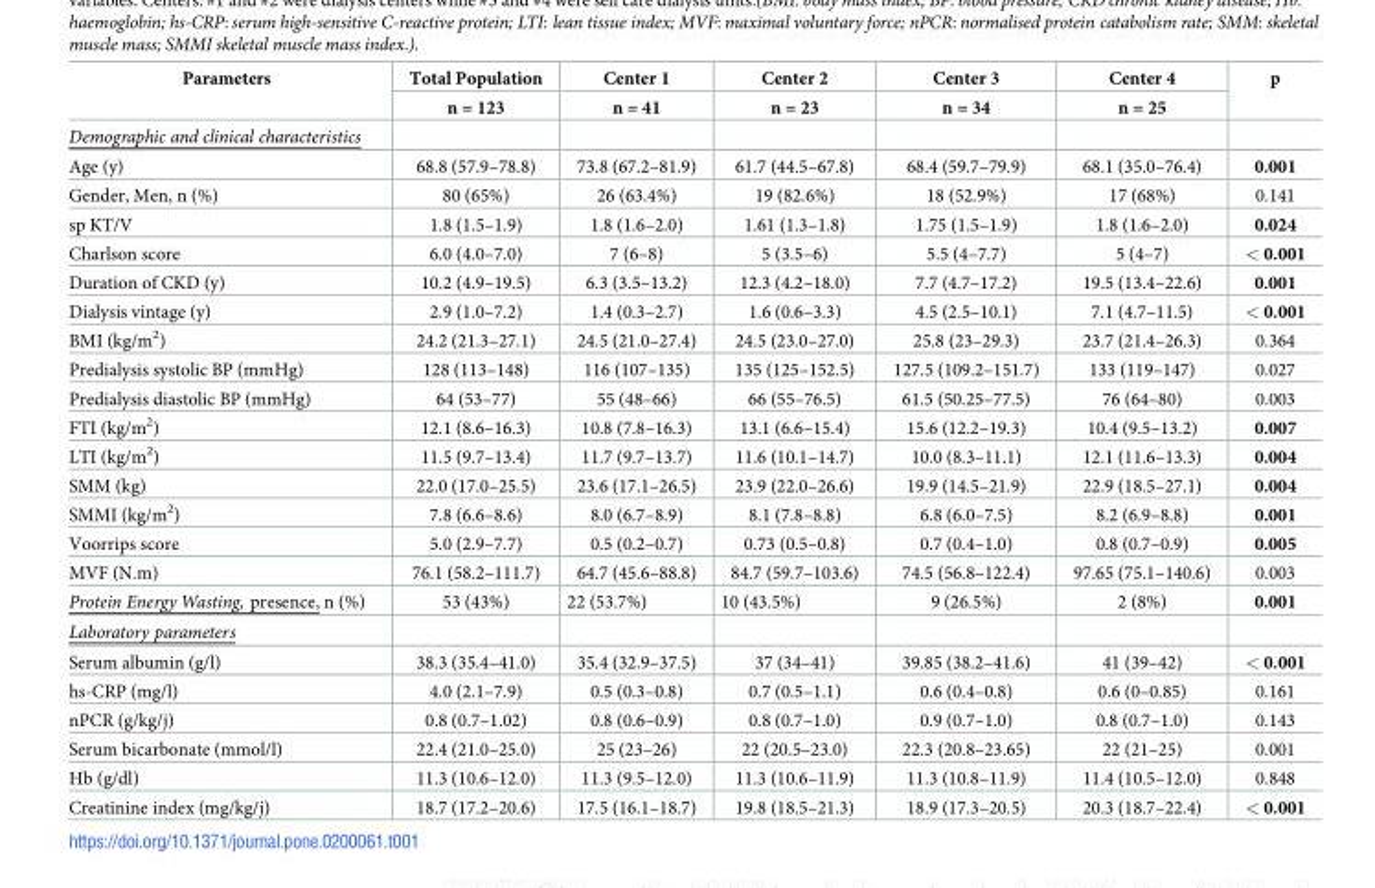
<table><thead><tr><td rowspan="2">Parameters</td><td rowspan="2">Total Population n = 123</td><td rowspan="2">Center 1 n = 41</td><td rowspan="2">Center 2 n = 23</td><td rowspan="2">Center 3 n = 34</td><td rowspan="2">Center 4 n = 25</td><td rowspan="2">p</td></tr><tr></tr></thead><tbody><tr><td colspan="7">Demographic and clinical characteristics</td></tr><tr><td>Age (y)</td><td>68.8 (57.9–78.8)</td><td>73.8 (67.2–81.9)</td><td>61.7 (44.5–67.8)</td><td>68.4 (59.7–79.9)</td><td>68.1 (35.0–76.4)</td><td>0.001</td></tr><tr><td>Gender, Men, n (%)</td><td>80 (65%)</td><td>26 (63.4%)</td><td>19 (82.6%)</td><td>18 (52.9%)</td><td>17 (68%)</td><td>0.141</td></tr><tr><td>sp KT/V</td><td>1.8 (1.5–1.9)</td><td>1.8 (1.6–2.0)</td><td>1.61 (1.3–1.8)</td><td>1.75 (1.5–1.9)</td><td>1.8 (1.6–2.0)</td><td>0.024</td></tr><tr><td>Charlson score</td><td>6.0 (4.0–7.0)</td><td>7 (6–8)</td><td>5 (3.5–6)</td><td>5.5 (4–7.7)</td><td>5 (4–7)</td><td>&lt; 0.001</td></tr><tr><td>Duration of CKD (y)</td><td>10.2 (4.9–19.5)</td><td>6.3 (3.5–13.2)</td><td>12.3 (4.2–18.0)</td><td>7.7 (4.7–17.2)</td><td>19.5 (13.4–22.6)</td><td>0.001</td></tr><tr><td>Dialysis vintage (y)</td><td>2.9 (1.0–7.2)</td><td>1.4 (0.3–2.7)</td><td>1.6 (0.6–3.3)</td><td>4.5 (2.5–10.1)</td><td>7.1 (4.7–11.5)</td><td>&lt; 0.001</td></tr><tr><td>BMI (kg/m<sup>2</sup>)</td><td>24.2 (21.3–27.1)</td><td>24.5 (21.0–27.4)</td><td>24.5 (23.0–27.0)</td><td>25.8 (23–29.3)</td><td>23.7 (21.4–26.3)</td><td>0.364</td></tr><tr><td>Predialysis systolic BP (mmHg)</td><td>128 (113–148)</td><td>116 (107–135)</td><td>135 (125–152.5)</td><td>127.5 (109.2–151.7)</td><td>133 (119–147)</td><td>0.027</td></tr><tr><td>Predialysis diastolic BP (mmHg)</td><td>64 (53–77)</td><td>55 (48–66)</td><td>66 (55–76.5)</td><td>61.5 (50.25–77.5)</td><td>76 (64–80)</td><td>0.003</td></tr><tr><td>FTI (kg/m<sup>2</sup>)</td><td>12.1 (8.6–16.3)</td><td>10.8 (7.8–16.3)</td><td>13.1 (6.6–15.4)</td><td>15.6 (12.2–19.3)</td><td>10.4 (9.5–13.2)</td><td>0.007</td></tr><tr><td>LTI (kg/m<sup>2</sup>)</td><td>11.5 (9.7–13.4)</td><td>11.7 (9.7–13.7)</td><td>11.6 (10.1–14.7)</td><td>10.0 (8.3–11.1)</td><td>12.1 (11.6–13.3)</td><td>0.004</td></tr><tr><td>SMM (kg)</td><td>22.0 (17.0–25.5)</td><td>23.6 (17.1–26.5)</td><td>23.9 (22.0–26.6)</td><td>19.9 (14.5–21.9)</td><td>22.9 (18.5–27.1)</td><td>0.004</td></tr><tr><td>SMMI (kg/m<sup>2</sup>)</td><td>7.8 (6.6–8.6)</td><td>8.0 (6.7–8.9)</td><td>8.1 (7.8–8.8)</td><td>6.8 (6.0–7.5)</td><td>8.2 (6.9–8.8)</td><td>0.001</td></tr><tr><td>Voorrips score</td><td>5.0 (2.9–7.7)</td><td>0.5 (0.2–0.7)</td><td>0.73 (0.5–0.8)</td><td>0.7 (0.4–1.0)</td><td>0.8 (0.7–0.9)</td><td>0.005</td></tr><tr><td>MVF (N.m)</td><td>76.1 (58.2–111.7)</td><td>64.7 (45.6–88.8)</td><td>84.7 (59.7–103.6)</td><td>74.5 (56.8–122.4)</td><td>97.65 (75.1–140.6)</td><td>0.003</td></tr><tr><td>Protein Energy Wasting, presence, n (%)</td><td>53 (43%)</td><td>22 (53.7%)</td><td>10 (43.5%)</td><td>9 (26.5%)</td><td>2 (8%)</td><td>0.001</td></tr><tr><td colspan="7">Laboratory parameters</td></tr><tr><td>Serum albumin (g/l)</td><td>38.3 (35.4–41.0)</td><td>35.4 (32.9–37.5)</td><td>37 (34–41)</td><td>39.85 (38.2–41.6)</td><td>41 (39–42)</td><td>&lt; 0.001</td></tr><tr><td>hs-CRP (mg/l)</td><td>4.0 (2.1–7.9)</td><td>0.5 (0.3–0.8)</td><td>0.7 (0.5–1.1)</td><td>0.6 (0.4–0.8)</td><td>0.6 (0–0.85)</td><td>0.161</td></tr><tr><td>nPCR (g/kg/j)</td><td>0.8 (0.7–1.02)</td><td>0.8 (0.6–0.9)</td><td>0.8 (0.7–1.0)</td><td>0.9 (0.7–1.0)</td><td>0.8 (0.7–1.0)</td><td>0.143</td></tr><tr><td>Serum bicarbonate (mmol/l)</td><td>22.4 (21.0–25.0)</td><td>25 (23–26)</td><td>22 (20.5–23.0)</td><td>22.3 (20.8–23.65)</td><td>22 (21–25)</td><td>0.001</td></tr><tr><td>Hb (g/dl)</td><td>11.3 (10.6–12.0)</td><td>11.3 (9.5–12.0)</td><td>11.3 (10.6–11.9)</td><td>11.3 (10.8–11.9)</td><td>11.4 (10.5–12.0)</td><td>0.848</td></tr><tr><td>Creatinine index (mg/kg/j)</td><td>18.7 (17.2–20.6)</td><td>17.5 (16.1–18.7)</td><td>19.8 (18.5–21.3)</td><td>18.9 (17.3–20.5)</td><td>20.3 (18.7–22.4)</td><td>&lt; 0.001</td></tr></tbody></table>